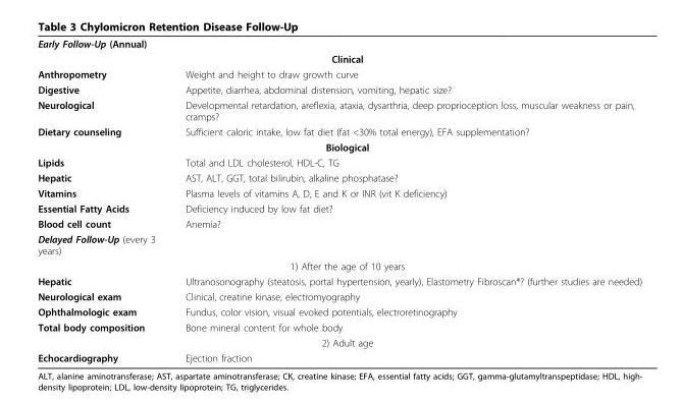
<table><tbody><tr><td colspan="2">Early Follow-Up (Annual)</td></tr><tr><td colspan="2">Clinical</td></tr><tr><td>Anthropometry</td><td>Weight and height to draw growth curve</td></tr><tr><td>Digestive</td><td>Appetite, diarrhea, abdominal distension, vomiting, hepatic size?</td></tr><tr><td>Neurological</td><td>Developmental retardation, areflexia, ataxia, dysarthria, deep proprioception loss, muscular weakness or pain, cramps?</td></tr><tr><td>Dietary counseling</td><td>Sufficient caloric intake, low fat diet (fat &lt;30% total energy), EFA supplementation?</td></tr><tr><td colspan="2">Biological</td></tr><tr><td>Lipids</td><td>Total and LDL cholesterol, HDL-C, TG</td></tr><tr><td>Hepatic</td><td>AST, ALT, GGT, total bilirubin, alkaline phosphatase?</td></tr><tr><td>Vitamins</td><td>Plasma levels of vitamins A, D, E and K or INR (vit K deficiency)</td></tr><tr><td>Essential Fatty Acids</td><td>Deficiency induced by low fat diet?</td></tr><tr><td>Blood cell count</td><td>Anemia?</td></tr><tr><td colspan="2">Delayed Follow-Up (every 3 years)</td></tr><tr><td colspan="2">1) After the age of 10 years</td></tr><tr><td>Hepatic</td><td>Ultranosonography (steatosis, portal hypertension, yearly), Elastometry Fibroscan<sup>®</sup>? (further studies are needed)</td></tr><tr><td>Neurological exam</td><td>Clinical, creatine kinase, electromyography</td></tr><tr><td>Ophthalmologic exam</td><td>Fundus, color vision, visual evoked potentials, electroretinography</td></tr><tr><td>Total body composition</td><td>Bone mineral content for whole body</td></tr><tr><td colspan="2">2) Adult age</td></tr><tr><td>Echocardiography</td><td>Ejection fraction</td></tr></tbody></table>